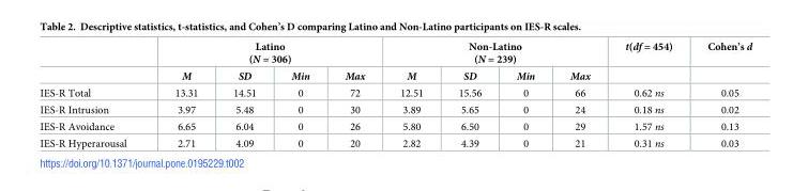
<table><thead><tr><td rowspan="2"></td><td colspan="4">Latino (N = 306)</td><td colspan="4">Non-Latino (N = 239)</td><td rowspan="2">t(df = 454)</td><td rowspan="2">Cohen’s d</td></tr><tr><td>M</td><td>SD</td><td>Min</td><td>Max</td><td>M</td><td>SD</td><td>Min</td><td>Max</td></tr></thead><tbody><tr><td>IES-R Total</td><td>13.31</td><td>14.51</td><td>0</td><td>72</td><td>12.51</td><td>15.56</td><td>0</td><td>66</td><td>0.62 ns</td><td>0.05</td></tr><tr><td>IES-R Intrusion</td><td>3.97</td><td>5.48</td><td>0</td><td>30</td><td>3.89</td><td>5.65</td><td>0</td><td>24</td><td>0.18 ns</td><td>0.02</td></tr><tr><td>IES-R Avoidance</td><td>6.65</td><td>6.04</td><td>0</td><td>26</td><td>5.80</td><td>6.50</td><td>0</td><td>29</td><td>1.57 ns</td><td>0.13</td></tr><tr><td>IES-R Hyperarousal</td><td>2.71</td><td>4.09</td><td>0</td><td>20</td><td>2.82</td><td>4.39</td><td>0</td><td>21</td><td>0.31 ns</td><td>0.03</td></tr></tbody></table>